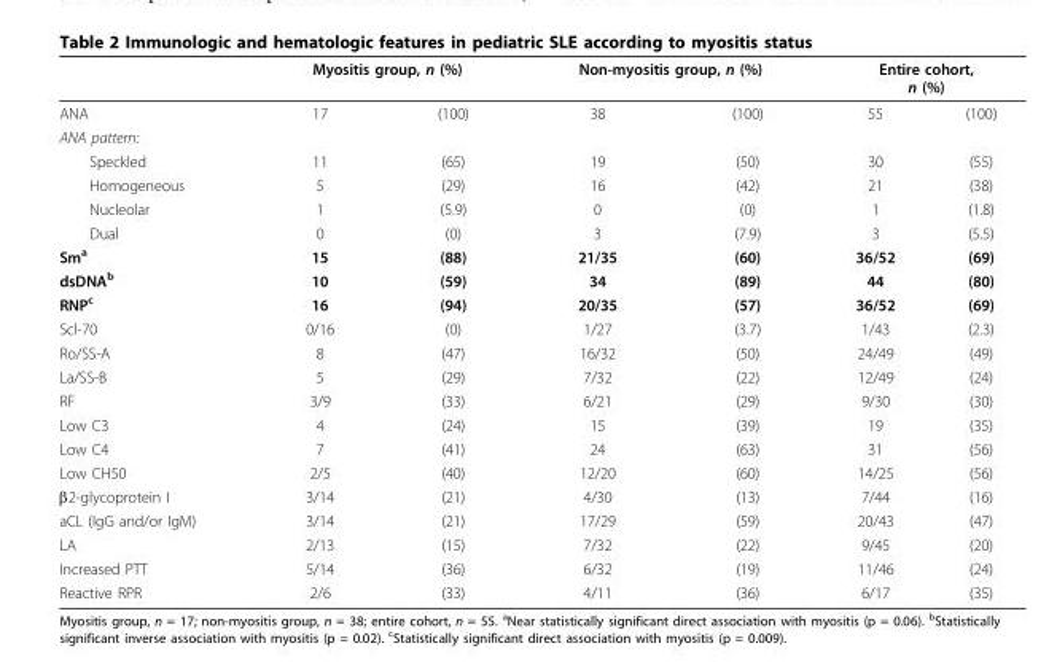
<table><thead><tr><td rowspan="2">ANA</td><td colspan="2">Myositis group, n (%)</td><td colspan="2">Non-myositis group, n (%)</td><td colspan="2">Entire cohort, n (%)</td></tr><tr><td>17</td><td>(100)</td><td>38</td><td>(100)</td><td>55</td><td>(100)</td></tr></thead><tbody><tr><td colspan="7">ANA pattern:</td></tr><tr><td>Speckled</td><td>11</td><td>(65)</td><td>19</td><td>(50)</td><td>30</td><td>(55)</td></tr><tr><td>Homogeneous</td><td>5</td><td>(29)</td><td>16</td><td>(42)</td><td>21</td><td>(38)</td></tr><tr><td>Nucleolar</td><td>1</td><td>(5.9)</td><td>0</td><td>(0)</td><td>1</td><td>(1.8)</td></tr><tr><td>Dual</td><td>0</td><td>(0)</td><td>3</td><td>(7.9)</td><td>3</td><td>(5.5)</td></tr><tr><td>Sm<sup>a</sup></td><td>15</td><td>(88)</td><td>21/35</td><td>(60)</td><td>36/52</td><td>(69)</td></tr><tr><td>dsDNA<sup>b</sup></td><td>10</td><td>(59)</td><td>34</td><td>(89)</td><td>44</td><td>(80)</td></tr><tr><td>RNP<sup>c</sup></td><td>16</td><td>(94)</td><td>20/35</td><td>(57)</td><td>36/52</td><td>(69)</td></tr><tr><td>Scl-70</td><td>0/16</td><td>(0)</td><td>1/27</td><td>(3.7)</td><td>1/43</td><td>(2.3)</td></tr><tr><td>Ro/SS-A</td><td>8</td><td>(47)</td><td>16/32</td><td>(50)</td><td>24/49</td><td>(49)</td></tr><tr><td>La/SS-B</td><td>5</td><td>(29)</td><td>7/32</td><td>(22)</td><td>12/49</td><td>(24)</td></tr><tr><td>RF</td><td>3/9</td><td>(33)</td><td>6/21</td><td>(29)</td><td>9/30</td><td>(30)</td></tr><tr><td>Low C3</td><td>4</td><td>(24)</td><td>15</td><td>(39)</td><td>19</td><td>(35)</td></tr><tr><td>Low C4</td><td>7</td><td>(41)</td><td>24</td><td>(63)</td><td>31</td><td>(56)</td></tr><tr><td>Low CH50</td><td>2/5</td><td>(40)</td><td>12/20</td><td>(60)</td><td>14/25</td><td>(56)</td></tr><tr><td>β2-glycoprotein I</td><td>3/14</td><td>(21)</td><td>4/30</td><td>(13)</td><td>7/44</td><td>(16)</td></tr><tr><td>aCL (IgG and/or IgM)</td><td>3/14</td><td>(21)</td><td>17/29</td><td>(59)</td><td>20/43</td><td>(47)</td></tr><tr><td>LA</td><td>2/13</td><td>(15)</td><td>7/32</td><td>(22)</td><td>9/45</td><td>(20)</td></tr><tr><td>Increased PTT</td><td>5/14</td><td>(36)</td><td>6/32</td><td>(19)</td><td>11/46</td><td>(24)</td></tr><tr><td>Reactive RPR</td><td>2/6</td><td>(33)</td><td>4/11</td><td>(36)</td><td>6/17</td><td>(35)</td></tr></tbody></table>